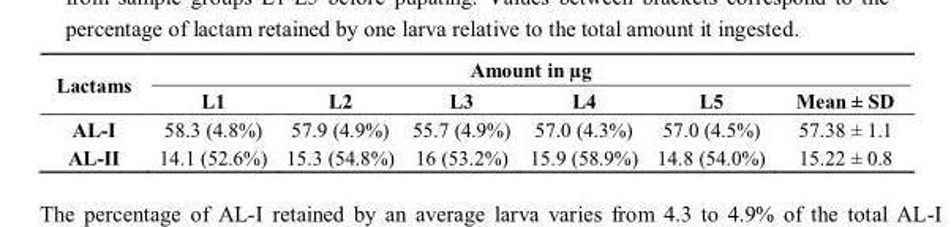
<table><thead><tr><td rowspan="2">Lactams</td><td colspan="6">Amount in µg</td></tr><tr><td>L1</td><td>L2</td><td>L3</td><td>L4</td><td>L5</td><td>Mean ± SD</td></tr></thead><tbody><tr><td>AL-I</td><td>58.3 (4.8%)</td><td>57.9 (4.9%)</td><td>55.7 (4.9%)</td><td>57.0 (4.3%)</td><td>57.0 (4.5%)</td><td>57.38 ± 1.1</td></tr><tr><td>AL-II</td><td>14.1 (52.6%)</td><td>15.3 (54.8%)</td><td>16 (53.2%)</td><td>15.9 (58.9%)</td><td>14.8 (54.0%)</td><td>15.22 ± 0.8</td></tr></tbody></table>